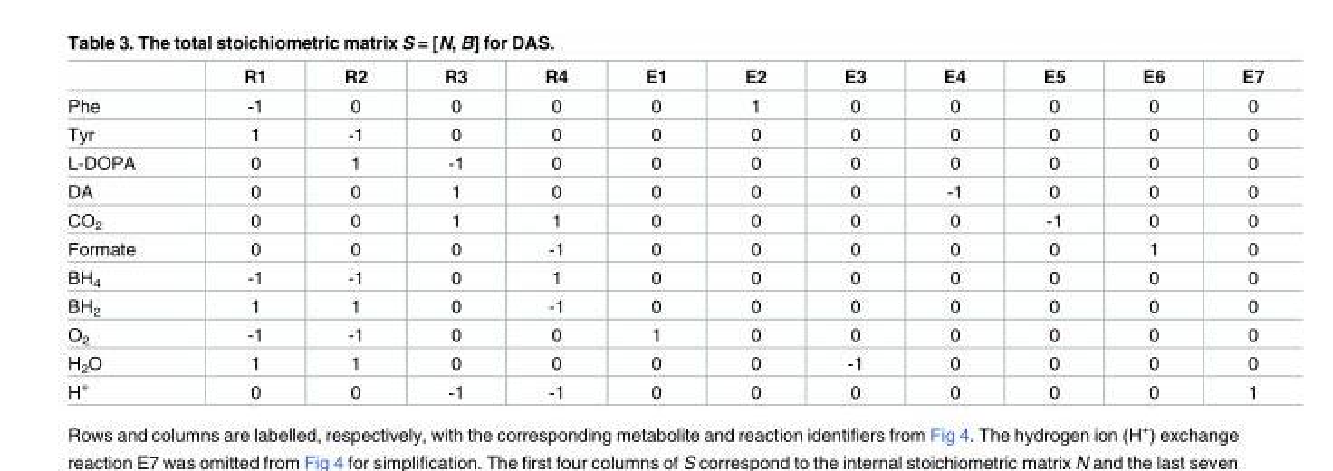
<table><thead><tr><td></td><td>R1</td><td>R2</td><td>R3</td><td>R4</td><td>E1</td><td>E2</td><td>E3</td><td>E4</td><td>E5</td><td>E6</td><td>E7</td></tr></thead><tbody><tr><td>Phe</td><td>-1</td><td>0</td><td>0</td><td>0</td><td>0</td><td>1</td><td>0</td><td>0</td><td>0</td><td>0</td><td>0</td></tr><tr><td>Tyr</td><td>1</td><td>-1</td><td>0</td><td>0</td><td>0</td><td>0</td><td>0</td><td>0</td><td>0</td><td>0</td><td>0</td></tr><tr><td>L-DOPA</td><td>0</td><td>1</td><td>-1</td><td>0</td><td>0</td><td>0</td><td>0</td><td>0</td><td>0</td><td>0</td><td>0</td></tr><tr><td>DA</td><td>0</td><td>0</td><td>1</td><td>0</td><td>0</td><td>0</td><td>0</td><td>-1</td><td>0</td><td>0</td><td>0</td></tr><tr><td>CO<sub>2</sub></td><td>0</td><td>0</td><td>1</td><td>1</td><td>0</td><td>0</td><td>0</td><td>0</td><td>-1</td><td>0</td><td>0</td></tr><tr><td>Formate</td><td>0</td><td>0</td><td>0</td><td>-1</td><td>0</td><td>0</td><td>0</td><td>0</td><td>0</td><td>1</td><td>0</td></tr><tr><td>BH<sub>4</sub></td><td>-1</td><td>-1</td><td>0</td><td>1</td><td>0</td><td>0</td><td>0</td><td>0</td><td>0</td><td>0</td><td>0</td></tr><tr><td>BH<sub>2</sub></td><td>1</td><td>1</td><td>0</td><td>-1</td><td>0</td><td>0</td><td>0</td><td>0</td><td>0</td><td>0</td><td>0</td></tr><tr><td>O<sub>2</sub></td><td>-1</td><td>-1</td><td>0</td><td>0</td><td>1</td><td>0</td><td>0</td><td>0</td><td>0</td><td>0</td><td>0</td></tr><tr><td>H<sub>2</sub>O</td><td>1</td><td>1</td><td>0</td><td>0</td><td>0</td><td>0</td><td>-1</td><td>0</td><td>0</td><td>0</td><td>0</td></tr><tr><td>H<sup>+</sup></td><td>0</td><td>0</td><td>-1</td><td>-1</td><td>0</td><td>0</td><td>0</td><td>0</td><td>0</td><td>0</td><td>1</td></tr></tbody></table>